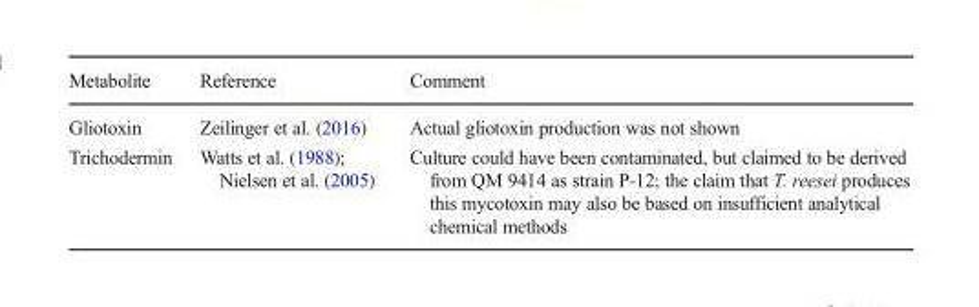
<table><thead><tr><td>Metabolite</td><td>Reference</td><td>Comment</td></tr></thead><tbody><tr><td>Gliotoxin</td><td>Zeilinger et al. (2016)</td><td>Actual gliotoxin production was not shown</td></tr><tr><td>Trichodermin</td><td>Watts et al. (1988); Nielsen et al. (2005)</td><td>Culture could have been contaminated, but claimed to be derived from QM 9414 as strain P-12; the claim that T. reesei produces this mycotoxin may also be based on insufficient analytical chemical methods</td></tr></tbody></table>